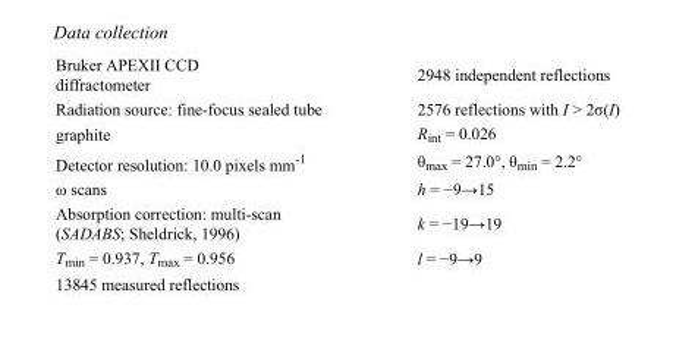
<table><tbody><tr><td>Bruker APEXII CCD diffractometer</td><td>2948 independent reflections</td></tr><tr><td>Radiation source: fine-focus sealed tube</td><td>2576 reflections with I &gt; 2σ(I)</td></tr><tr><td>graphite</td><td>R<sub>int</sub> = 0.026</td></tr><tr><td>Detector resolution: 10.0 pixels mm<sup>-1</sup></td><td>θ<sub>max</sub> = 27.0°, θ<sub>min</sub> = 2.2°</td></tr><tr><td>ω scans</td><td>h = −9→15</td></tr><tr><td>Absorption correction: multi-scan (SADABS; Sheldrick, 1996)</td><td>k = −19→19</td></tr><tr><td>T<sub>min</sub> = 0.937, T<sub>max</sub> = 0.956</td><td>l = −9→9</td></tr><tr><td>13845 measured reflections</td><td></td></tr></tbody></table>